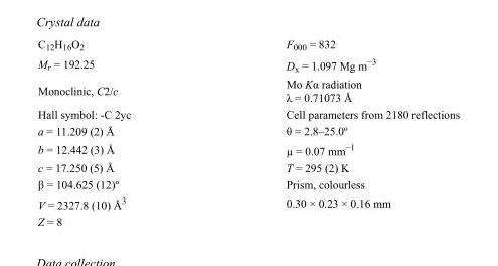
<table><tbody><tr><td>C<sub>12</sub>H<sub>16</sub>O<sub>2</sub></td><td>F000 = 832</td></tr><tr><td>M<sub>r</sub> = 192.25</td><td>D<sub>x</sub> = 1.097 Mg m<sup>−3</sup></td></tr><tr><td>Monoclinic, C2/c</td><td>Mo Kα radiation λ = 0.71073 Å</td></tr><tr><td>Hall symbol: -C 2yc</td><td>Cell parameters from 2180 reflections</td></tr><tr><td>a = 11.209 (2) Å</td><td>θ = 2.8–25.0º</td></tr><tr><td>b = 12.442 (3) Å</td><td>µ = 0.07 mm<sup>−1</sup></td></tr><tr><td>c = 17.250 (5) Å</td><td>T = 295 (2) K</td></tr><tr><td>β = 104.625 (12)º</td><td>Prism, colourless</td></tr><tr><td>V = 2327.8 (10) Å<sup>3</sup></td><td>0.30 × 0.23 × 0.16 mm</td></tr><tr><td>Z = 8</td><td></td></tr></tbody></table>